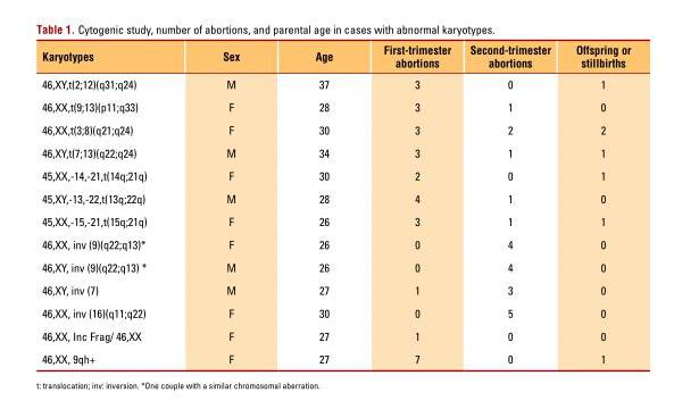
<table><thead><tr><td>Karyotypes</td><td>Sex</td><td>Age</td><td>First-trimester abortions</td><td>Second-trimester abortions</td><td>Offspring or stillbirths</td></tr></thead><tbody><tr><td>46,XY,t(2;12)(q31;q24)</td><td>M</td><td>37</td><td>3</td><td>0</td><td>1</td></tr><tr><td>46,XX,t(9;13)(p11;q33)</td><td>F</td><td>28</td><td>3</td><td>1</td><td>0</td></tr><tr><td>46,XX,t(3;8)(q21;q24)</td><td>F</td><td>30</td><td>3</td><td>2</td><td>2</td></tr><tr><td>46,XY,t(7;13)(q22;q24)</td><td>M</td><td>34</td><td>3</td><td>1</td><td>1</td></tr><tr><td>45,XX,-14,-21,t(14q;21q)</td><td>F</td><td>30</td><td>2</td><td>0</td><td>1</td></tr><tr><td>45,XY,-13,-22,t(13q;22q)</td><td>M</td><td>28</td><td>4</td><td>1</td><td>0</td></tr><tr><td>45,XX,-15,-21,t(15q;21q)</td><td>F</td><td>26</td><td>3</td><td>1</td><td>1</td></tr><tr><td>46,XX, inv (9)(q22;q13)*</td><td>F</td><td>26</td><td>0</td><td>4</td><td>0</td></tr><tr><td>46,XY, inv (9)(q22;q13) *</td><td>M</td><td>26</td><td>0</td><td>4</td><td>0</td></tr><tr><td>46,XY, inv (7)</td><td>M</td><td>27</td><td>1</td><td>3</td><td>0</td></tr><tr><td>46,XX, inv (16)(q11;q22)</td><td>F</td><td>30</td><td>0</td><td>5</td><td>0</td></tr><tr><td>46,XX, Inc Frag/ 46,XX</td><td>F</td><td>27</td><td>1</td><td>0</td><td>0</td></tr><tr><td>46,XX, 9qh+</td><td>F</td><td>27</td><td>7</td><td>0</td><td>1</td></tr></tbody></table>